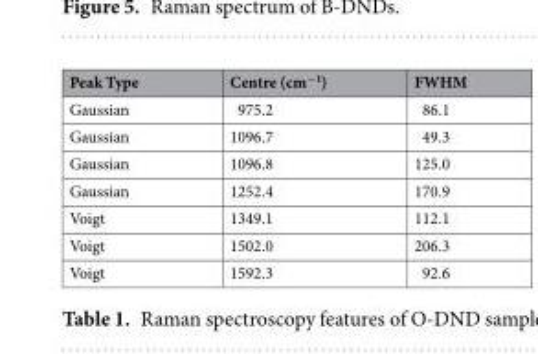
<table><thead><tr><td>Peak Type</td><td>Centre (cm<sup>−1</sup>)</td><td>FWHM</td></tr></thead><tbody><tr><td>Gaussian</td><td>975.2</td><td>86.1</td></tr><tr><td>Gaussian</td><td>1096.7</td><td>49.3</td></tr><tr><td>Gaussian</td><td>1096.8</td><td>125.0</td></tr><tr><td>Gaussian</td><td>1252.4</td><td>170.9</td></tr><tr><td>Voigt</td><td>1349.1</td><td>112.1</td></tr><tr><td>Voigt</td><td>1502.0</td><td>206.3</td></tr><tr><td>Voigt</td><td>1592.3</td><td>92.6</td></tr></tbody></table>